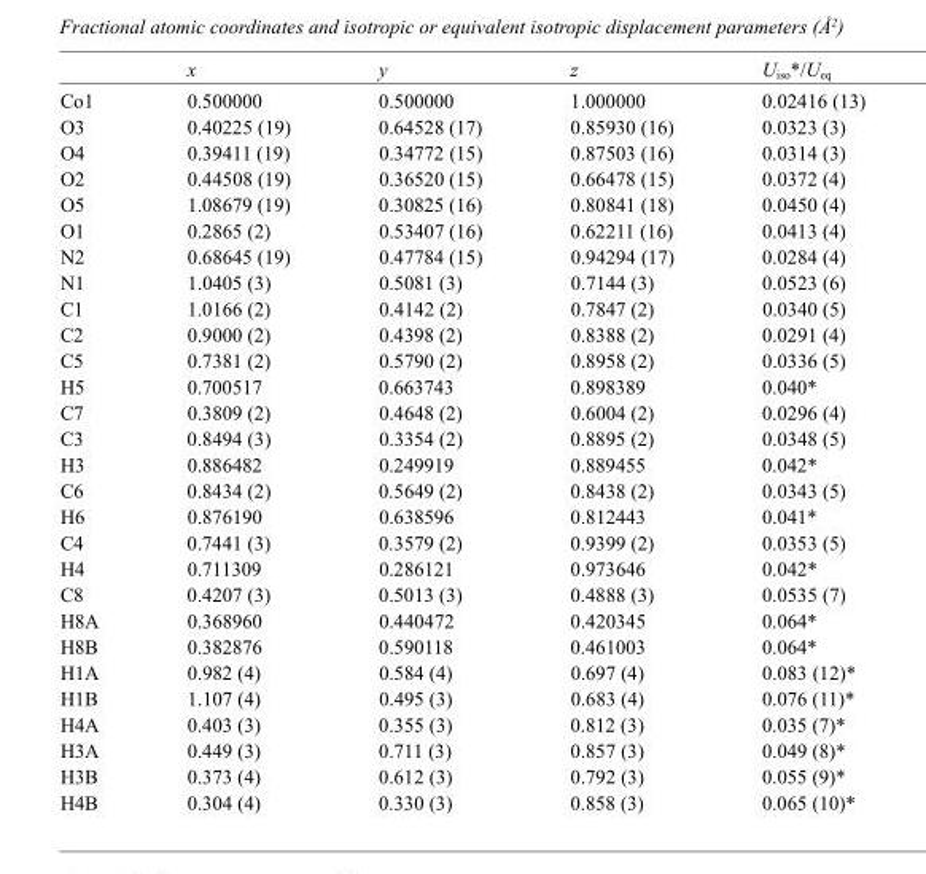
<table><thead><tr><td></td><td>x</td><td>y</td><td>z</td><td>U<sub>iso</sub>*/U<sub>eq</sub></td></tr></thead><tbody><tr><td>Co1</td><td>0.500000</td><td>0.500000</td><td>1.000000</td><td>0.02416 (13)</td></tr><tr><td>O3</td><td>0.40225 (19)</td><td>0.64528 (17)</td><td>0.85930 (16)</td><td>0.0323 (3)</td></tr><tr><td>O4</td><td>0.39411 (19)</td><td>0.34772 (15)</td><td>0.87503 (16)</td><td>0.0314 (3)</td></tr><tr><td>O2</td><td>0.44508 (19)</td><td>0.36520 (15)</td><td>0.66478 (15)</td><td>0.0372 (4)</td></tr><tr><td>O5</td><td>1.08679 (19)</td><td>0.30825 (16)</td><td>0.80841 (18)</td><td>0.0450 (4)</td></tr><tr><td>O1</td><td>0.2865 (2)</td><td>0.53407 (16)</td><td>0.62211 (16)</td><td>0.0413 (4)</td></tr><tr><td>N2</td><td>0.68645 (19)</td><td>0.47784 (15)</td><td>0.94294 (17)</td><td>0.0284 (4)</td></tr><tr><td>N1</td><td>1.0405 (3)</td><td>0.5081 (3)</td><td>0.7144 (3)</td><td>0.0523 (6)</td></tr><tr><td>C1</td><td>1.0166 (2)</td><td>0.4142 (2)</td><td>0.7847 (2)</td><td>0.0340 (5)</td></tr><tr><td>C2</td><td>0.9000 (2)</td><td>0.4398 (2)</td><td>0.8388 (2)</td><td>0.0291 (4)</td></tr><tr><td>C5</td><td>0.7381 (2)</td><td>0.5790 (2)</td><td>0.8958 (2)</td><td>0.0336 (5)</td></tr><tr><td>H5</td><td>0.700517</td><td>0.663743</td><td>0.898389</td><td>0.040*</td></tr><tr><td>C7</td><td>0.3809 (2)</td><td>0.4648 (2)</td><td>0.6004 (2)</td><td>0.0296 (4)</td></tr><tr><td>C3</td><td>0.8494 (3)</td><td>0.3354 (2)</td><td>0.8895 (2)</td><td>0.0348 (5)</td></tr><tr><td>H3</td><td>0.886482</td><td>0.249919</td><td>0.889455</td><td>0.042*</td></tr><tr><td>C6</td><td>0.8434 (2)</td><td>0.5649 (2)</td><td>0.8438 (2)</td><td>0.0343 (5)</td></tr><tr><td>H6</td><td>0.876190</td><td>0.638596</td><td>0.812443</td><td>0.041*</td></tr><tr><td>C4</td><td>0.7441 (3)</td><td>0.3579 (2)</td><td>0.9399 (2)</td><td>0.0353 (5)</td></tr><tr><td>H4</td><td>0.711309</td><td>0.286121</td><td>0.973646</td><td>0.042*</td></tr><tr><td>C8</td><td>0.4207 (3)</td><td>0.5013 (3)</td><td>0.4888 (3)</td><td>0.0535 (7)</td></tr><tr><td>H8A</td><td>0.368960</td><td>0.440472</td><td>0.420345</td><td>0.064*</td></tr><tr><td>H8B</td><td>0.382876</td><td>0.590118</td><td>0.461003</td><td>0.064*</td></tr><tr><td>H1A</td><td>0.982 (4)</td><td>0.584 (4)</td><td>0.697 (4)</td><td>0.083 (12)*</td></tr><tr><td>H1B</td><td>1.107 (4)</td><td>0.495 (3)</td><td>0.683 (4)</td><td>0.076 (11)*</td></tr><tr><td>H4A</td><td>0.403 (3)</td><td>0.355 (3)</td><td>0.812 (3)</td><td>0.035 (7)*</td></tr><tr><td>H3A</td><td>0.449 (3)</td><td>0.711 (3)</td><td>0.857 (3)</td><td>0.049 (8)*</td></tr><tr><td>H3B</td><td>0.373 (4)</td><td>0.612 (3)</td><td>0.792 (3)</td><td>0.055 (9)*</td></tr><tr><td>H4B</td><td>0.304 (4)</td><td>0.330 (3)</td><td>0.858 (3)</td><td>0.065 (10)*</td></tr></tbody></table>